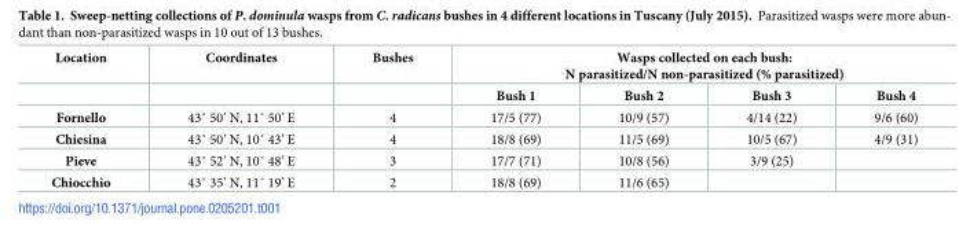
<table><thead><tr><td rowspan="2">Location</td><td rowspan="2">Coordinates</td><td rowspan="2">Bushes</td><td colspan="4">Wasps collected on each bush: N parasitized/N non-parasitized (% parasitized)</td></tr><tr><td>Bush 1</td><td>Bush 2</td><td>Bush 3</td><td>Bush 4</td></tr></thead><tbody><tr><td>Fornello</td><td>43˚ 50’ N, 11˚ 50’ E</td><td>4</td><td>17/5 (77)</td><td>10/9 (57)</td><td>4/14 (22)</td><td>9/6 (60)</td></tr><tr><td>Chiesina</td><td>43˚ 50’ N, 10˚ 43’ E</td><td>4</td><td>18/8 (69)</td><td>11/5 (69)</td><td>10/5 (67)</td><td>4/9 (31)</td></tr><tr><td>Pieve</td><td>43˚ 52’ N, 10˚ 48’ E</td><td>3</td><td>17/7 (71)</td><td>10/8 (56)</td><td>3/9 (25)</td><td></td></tr><tr><td>Chiocchio</td><td>43˚ 35’ N, 11˚ 19’ E</td><td>2</td><td>18/8 (69)</td><td>11/6 (65)</td><td></td><td></td></tr></tbody></table>